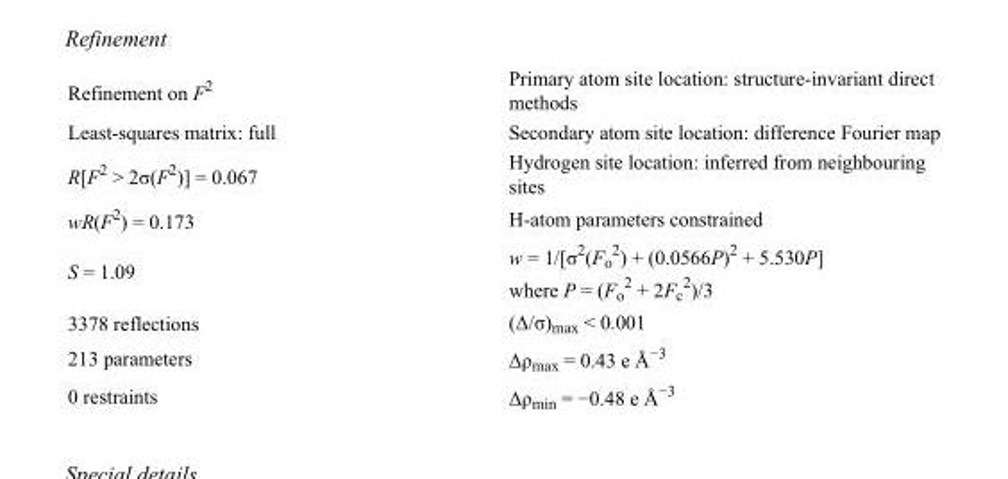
<table><tbody><tr><td>Refinement on F<sup>2</sup></td><td>Primary atom site location: structure-invariant direct methods</td></tr><tr><td>Least-squares matrix: full</td><td>Secondary atom site location: difference Fourier map</td></tr><tr><td>R[F<sup>2</sup> &gt; 2σ(F<sup>2</sup>)] = 0.067</td><td>Hydrogen site location: inferred from neighbouring sites</td></tr><tr><td>wR(F<sup>2</sup>) = 0.173</td><td>H-atom parameters constrained</td></tr><tr><td>S = 1.09</td><td>w = 1/[σ<sup>2</sup>(F<sub>o</sub> <sup>2</sup>) + (0.0566P)<sup>2</sup> + 5.530P] where P = (F<sub>o</sub> <sup>2</sup> + 2F<sub>c</sub> <sup>2</sup>)/3</td></tr><tr><td>3378 reflections</td><td>(Δ/σ)<sub>max</sub> &lt; 0.001</td></tr><tr><td>213 parameters</td><td>Δρ<sub>max</sub> = 0.43 e Å<sup>−3</sup></td></tr><tr><td>0 restraints</td><td>Δρ<sub>min</sub> = −0.48 e Å<sup>−3</sup></td></tr></tbody></table>